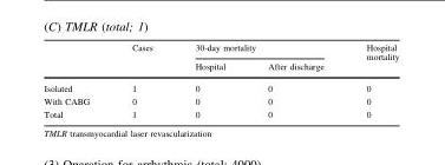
<table><thead><tr><td rowspan="2"></td><td rowspan="2">Cases</td><td colspan="2">30-day mortality</td><td rowspan="2">Hospital mortality</td></tr><tr><td>Hospital</td><td>After discharge</td></tr></thead><tbody><tr><td>Isolated</td><td>1</td><td>0</td><td>0</td><td>0</td></tr><tr><td>With CABG</td><td>0</td><td>0</td><td>0</td><td>0</td></tr><tr><td>Total</td><td>1</td><td>0</td><td>0</td><td>0</td></tr></tbody></table>